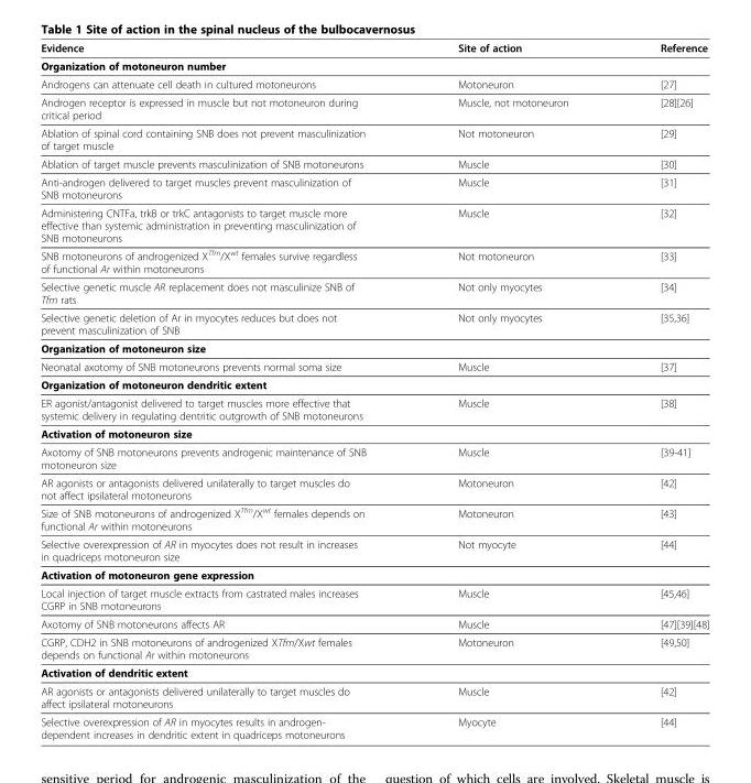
<table><thead><tr><td>Evidence</td><td>Site of action</td><td>Reference</td></tr></thead><tbody><tr><td colspan="3">Organization of motoneuron number</td></tr><tr><td>Androgens can attenuate cell death in cultured motoneurons</td><td>Motoneuron</td><td>[27]</td></tr><tr><td>Androgen receptor is expressed in muscle but not motoneuron during critical period</td><td>Muscle, not motoneuron</td><td>[28][26]</td></tr><tr><td>Ablation of spinal cord containing SNB does not prevent masculinization of target muscle</td><td>Not motoneuron</td><td>[29]</td></tr><tr><td>Ablation of target muscle prevents masculinization of SNB motoneurons</td><td>Muscle</td><td>[30]</td></tr><tr><td>Anti-androgen delivered to target muscles prevent masculinization of SNB motoneurons</td><td>Muscle</td><td>[31]</td></tr><tr><td>Administering CNTFa, trkB or trkC antagonists to target muscle more effective than systemic administration in preventing masculinization of SNB motoneurons</td><td>Muscle</td><td>[32]</td></tr><tr><td>SNB motoneurons of androgenized X<sup>Tfm</sup>/X<sup>wt</sup> females survive regardless of functional Ar within motoneurons</td><td>Not motoneuron</td><td>[33]</td></tr><tr><td>Selective genetic muscle AR replacement does not masculinize SNB of Tfm rats</td><td>Not only myocytes</td><td>[34]</td></tr><tr><td>Selective genetic deletion of Ar in myocytes reduces but does not prevent masculinization of SNB</td><td>Not only myocytes</td><td>[35,36]</td></tr><tr><td colspan="3">Organization of motoneuron size</td></tr><tr><td>Neonatal axotomy of SNB motoneurons prevents normal soma size</td><td>Muscle</td><td>[37]</td></tr><tr><td colspan="3">Organization of motoneuron dendritic extent</td></tr><tr><td>ER agonist/antagonist delivered to target muscles more effective that systemic delivery in regulating dentritic outgrowth of SNB motoneurons</td><td>Muscle</td><td>[38]</td></tr><tr><td colspan="3">Activation of motoneuron size</td></tr><tr><td>Axotomy of SNB motoneurons prevents androgenic maintenance of SNB motoneuron size</td><td>Muscle</td><td>[39-41]</td></tr><tr><td>AR agonists or antagonists delivered unilaterally to target muscles do not affect ipsilateral motoneurons</td><td>Motoneuron</td><td>[42]</td></tr><tr><td>Size of SNB motoneurons of androgenized X<sup>Tfm</sup>/X<sup>wt</sup> females depends on functional Ar within motoneurons</td><td>Motoneuron</td><td>[43]</td></tr><tr><td>Selective overexpression of AR in myocytes does not result in increases in quadriceps motoneuron size</td><td>Not myocyte</td><td>[44]</td></tr><tr><td colspan="3">Activation of motoneuron gene expression</td></tr><tr><td>Local injection of target muscle extracts from castrated males increases CGRP in SNB motoneurons</td><td>Muscle</td><td>[45,46]</td></tr><tr><td>Axotomy of SNB motoneurons affects AR</td><td>Muscle</td><td>[47][39][48]</td></tr><tr><td>CGRP, CDH2 in SNB motoneurons of androgenized XTfm/Xwt females depends on functional Ar within motoneurons</td><td>Motoneuron</td><td>[49,50]</td></tr><tr><td colspan="3">Activation of dendritic extent</td></tr><tr><td>AR agonists or antagonists delivered unilaterally to target muscles do affect ipsilateral motoneurons</td><td>Muscle</td><td>[42]</td></tr><tr><td>Selective overexpression of AR in myocytes results in androgen- dependent increases in dendritic extent in quadriceps motoneurons</td><td>Myocyte</td><td>[44]</td></tr></tbody></table>